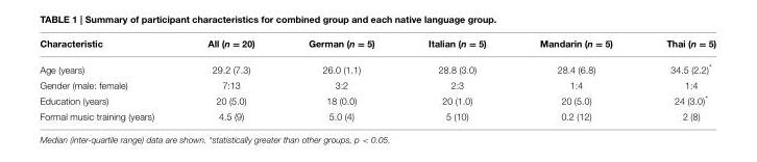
<table><thead><tr><td>Characteristic</td><td>All (n = 20)</td><td>German (n = 5)</td><td>Italian (n = 5)</td><td>Mandarin (n = 5)</td><td>Thai (n = 5)</td></tr></thead><tbody><tr><td>Age (years)</td><td>29.2 (7.3)</td><td>26.0 (1.1)</td><td>28.8 (3.0)</td><td>28.4 (6.8)</td><td>34.5 (2.2)*</td></tr><tr><td>Gender (male: female)</td><td>7:13</td><td>3:2</td><td>2:3</td><td>1:4</td><td>1:4</td></tr><tr><td>Education (years)</td><td>20 (5.0)</td><td>18 (0.0)</td><td>20 (1.0)</td><td>20 (5.0)</td><td>24 (3.0)*</td></tr><tr><td>Formal music training (years)</td><td>4.5 (9)</td><td>5.0 (4)</td><td>5 (10)</td><td>0.2 (12)</td><td>2 (8)</td></tr></tbody></table>